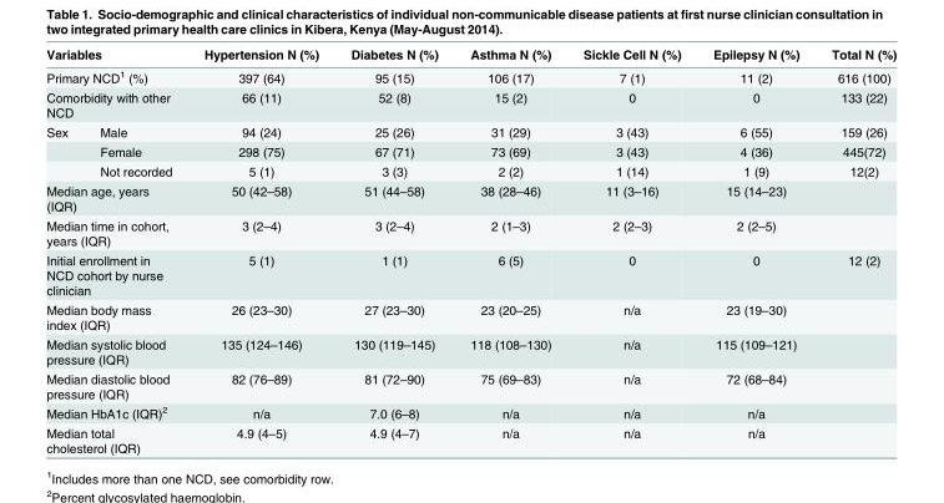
<table><thead><tr><td rowspan="3" colspan="2">Variables Primary NCD<sup>1</sup> (%) Comorbidity with other NCD</td><td rowspan="4">Hypertension N (%) 397 (64) 66 (11) 94 (24)</td><td rowspan="4">Diabetes N (%) 95 (15) 52 (8) 25 (26)</td><td rowspan="4">Asthma N (%) 106 (17) 15 (2) 31 (29)</td><td rowspan="4">Sickle Cell N (%) 7 (1) 0 3 (43)</td><td rowspan="4">Epilepsy N (%) 11 (2) 0 6 (55)</td><td rowspan="4">Total N (%) 616 (100) 133 (22) 159 (26)</td></tr><tr></tr><tr></tr><tr><td>Sex</td><td>Male</td></tr></thead><tbody><tr><td></td><td>Female</td><td>298 (75)</td><td>67 (71)</td><td>73 (69)</td><td>3 (43)</td><td>4 (36)</td><td>445(72)</td></tr><tr><td></td><td>Not recorded</td><td>5 (1)</td><td>3 (3)</td><td>2 (2)</td><td>1 (14)</td><td>1 (9)</td><td>12(2)</td></tr><tr><td colspan="2">Median age, years (IQR)</td><td>50 (42–58)</td><td>51 (44–58)</td><td>38 (28–46)</td><td>11 (3–16)</td><td>15 (14–23)</td><td></td></tr><tr><td colspan="2">Median time in cohort, years (IQR)</td><td>3 (2–4)</td><td>3 (2–4)</td><td>2 (1–3)</td><td>2 (2–3)</td><td>2 (2–5)</td><td></td></tr><tr><td colspan="2">Initial enrollment in NCD cohort by nurse clinician</td><td>5 (1)</td><td>1 (1)</td><td>6 (5)</td><td>0</td><td>0</td><td>12 (2)</td></tr><tr><td colspan="2">Median body mass index (IQR)</td><td>26 (23–30)</td><td>27 (23–30)</td><td>23 (20–25)</td><td>n/a</td><td>23 (19–30)</td><td></td></tr><tr><td colspan="2">Median systolic blood pressure (IQR)</td><td>135 (124–146)</td><td>130 (119–145)</td><td>118 (108–130)</td><td>n/a</td><td>115 (109–121)</td><td></td></tr><tr><td colspan="2">Median diastolic blood pressure (IQR)</td><td>82 (76–89)</td><td>81 (72–90)</td><td>75 (69–83)</td><td>n/a</td><td>72 (68–84)</td><td></td></tr><tr><td colspan="2">Median HbA1c (IQR)<sup>2</sup></td><td>n/a</td><td>7.0 (6–8)</td><td>n/a</td><td>n/a</td><td>n/a</td><td></td></tr><tr><td colspan="2">Median total cholesterol (IQR)</td><td>4.9 (4–5)</td><td>4.9 (4–7)</td><td>n/a</td><td>n/a</td><td>n/a</td><td></td></tr></tbody></table>